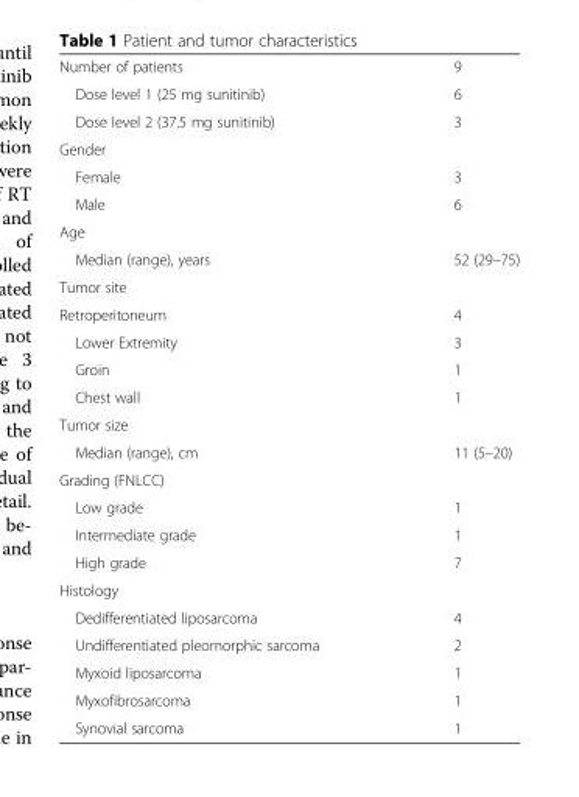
<table><tbody><tr><td>Number of patients</td><td>9</td></tr><tr><td>Dose level 1 (25 mg sunitinib)</td><td>6</td></tr><tr><td>Dose level 2 (37.5 mg sunitinib)</td><td>3</td></tr><tr><td colspan="2">Gender</td></tr><tr><td>Female</td><td>3</td></tr><tr><td>Male</td><td>6</td></tr><tr><td colspan="2">Age</td></tr><tr><td>Median (range), years</td><td>52 (29–75)</td></tr><tr><td colspan="2">Tumor site</td></tr><tr><td>Retroperitoneum</td><td>4</td></tr><tr><td>Lower Extremity</td><td>3</td></tr><tr><td>Groin</td><td>1</td></tr><tr><td>Chest wall</td><td>1</td></tr><tr><td colspan="2">Tumor size</td></tr><tr><td>Median (range), cm</td><td>11 (5–20)</td></tr><tr><td colspan="2">Grading (FNLCC)</td></tr><tr><td>Low grade</td><td>1</td></tr><tr><td>Intermediate grade</td><td>1</td></tr><tr><td>High grade</td><td>7</td></tr><tr><td colspan="2">Histology</td></tr><tr><td>Dedifferentiated liposarcoma</td><td>4</td></tr><tr><td>Undifferentiated pleomorphic sarcoma</td><td>2</td></tr><tr><td>Myxoid liposarcoma</td><td>1</td></tr><tr><td>Myxofibrosarcoma</td><td>1</td></tr><tr><td>Synovial sarcoma</td><td>1</td></tr></tbody></table>